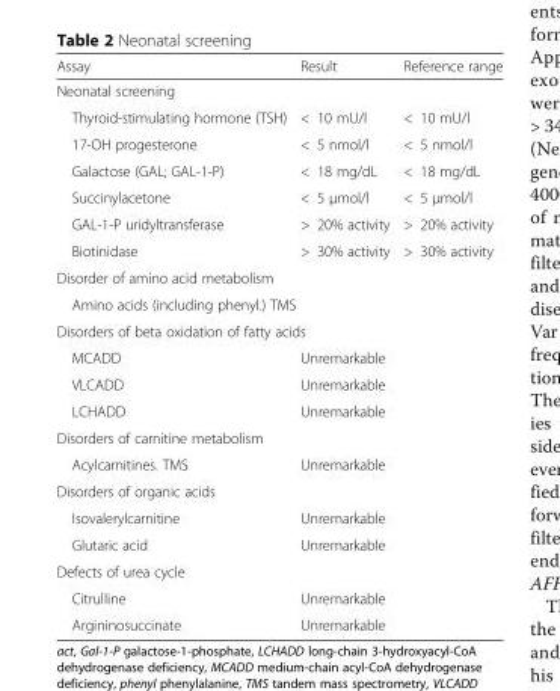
<table><thead><tr><td>Assay</td><td>Result</td><td>Reference range</td></tr></thead><tbody><tr><td colspan="3">Neonatal screening</td></tr><tr><td>Thyroid-stimulating hormone (TSH)</td><td>&lt; 10 mU/l</td><td>&lt; 10 mU/l</td></tr><tr><td>17-OH progesterone</td><td>&lt; 5 nmol/l</td><td>&lt; 5 nmol/l</td></tr><tr><td>Galactose (GAL; GAL-1-P)</td><td>&lt; 18 mg/dL</td><td>&lt; 18 mg/dL</td></tr><tr><td>Succinylacetone</td><td>&lt; 5 μmol/l</td><td>&lt; 5 μmol/l</td></tr><tr><td>GAL-1-P uridyltransferase</td><td>&gt; 20% activity</td><td>&gt; 20% activity</td></tr><tr><td>Biotinidase</td><td>&gt; 30% activity</td><td>&gt; 30% activity</td></tr><tr><td colspan="3">Disorder of amino acid metabolism</td></tr><tr><td colspan="3">Amino acids (including phenyl.) TMS</td></tr><tr><td colspan="3">Disorders of beta oxidation of fatty acids</td></tr><tr><td>MCADD</td><td colspan="2">Unremarkable</td></tr><tr><td>VLCADD</td><td colspan="2">Unremarkable</td></tr><tr><td>LCHADD</td><td colspan="2">Unremarkable</td></tr><tr><td colspan="3">Disorders of carnitine metabolism</td></tr><tr><td>Acylcarnitines. TMS</td><td colspan="2">Unremarkable</td></tr><tr><td colspan="3">Disorders of organic acids</td></tr><tr><td>Isovalerylcarnitine</td><td colspan="2">Unremarkable</td></tr><tr><td>Glutaric acid</td><td colspan="2">Unremarkable</td></tr><tr><td colspan="3">Defects of urea cycle</td></tr><tr><td>Citrulline</td><td colspan="2">Unremarkable</td></tr><tr><td>Argininosuccinate</td><td colspan="2">Unremarkable</td></tr></tbody></table>